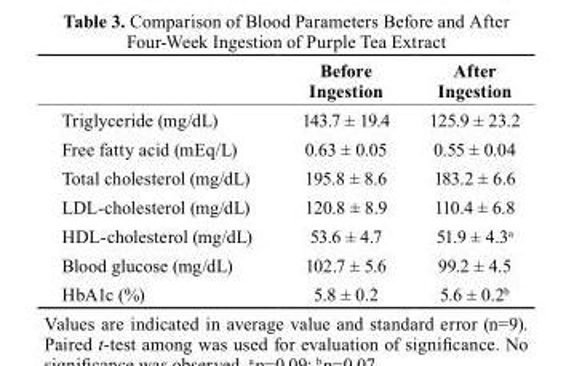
<table><thead><tr><td></td><td>before Ingestion</td><td>After Ingestion</td></tr></thead><tbody><tr><td>Triglyceride (mg/dL)</td><td>143.7 ± 19.4</td><td>125.9 ± 23.2</td></tr><tr><td>Free fatty acid (mEq/L)</td><td>0.63 ± 0.05</td><td>0.55 ± 0.04</td></tr><tr><td>Total cholesterol (mg/dL)</td><td>195.8 ± 8.6</td><td>183.2 ± 6.6</td></tr><tr><td>LDL-cholesterol (mg/dL)</td><td>120.8 ± 8.9</td><td>110.4 ± 6.8</td></tr><tr><td>HDL-cholesterol (mg/dL)</td><td>53.6 ± 4.7</td><td>51.9 ± 4.3<sup>a</sup></td></tr><tr><td>Blood glucose (mg/dL)</td><td>102.7 ± 5.6</td><td>99.2 ± 4.5</td></tr><tr><td>HbA1c (%)</td><td>5.8 ± 0.2</td><td>5.6 ± 0.2<sup>b</sup></td></tr></tbody></table>